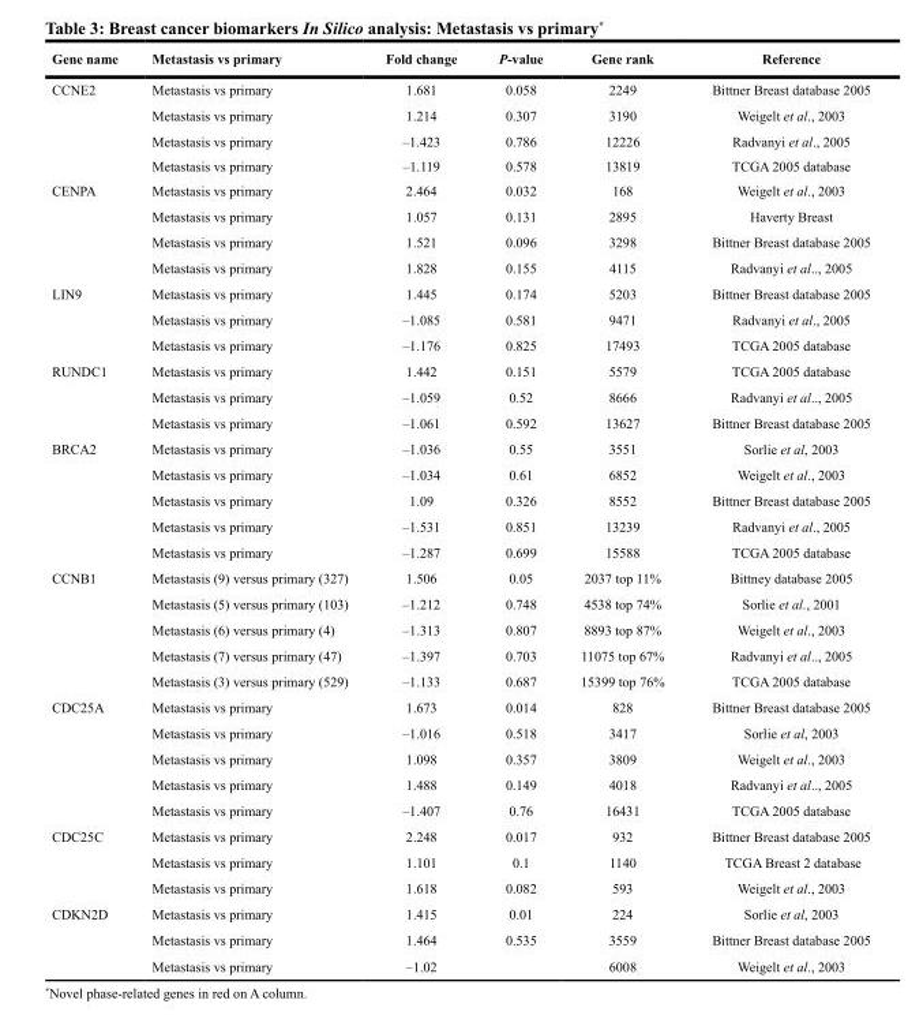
<table><thead><tr><td>Gene name</td><td>Metastasis vs primary</td><td>Fold change</td><td>P-value</td><td>Gene rank</td><td>Reference</td></tr></thead><tbody><tr><td rowspan="4">CCNE2</td><td>Metastasis vs primary</td><td>1.681</td><td>0.058</td><td>2249</td><td>Bittner Breast database 2005</td></tr><tr><td>Metastasis vs primary</td><td>1.214</td><td>0.307</td><td>3190</td><td>Weigelt et al., 2003</td></tr><tr><td>Metastasis vs primary</td><td>–1.423</td><td>0.786</td><td>12226</td><td>Radvanyi et al., 2005</td></tr><tr><td>Metastasis vs primary</td><td>–1.119</td><td>0.578</td><td>13819</td><td>TCGA 2005 database</td></tr><tr><td rowspan="4">CENPA</td><td>Metastasis vs primary</td><td>2.464</td><td>0.032</td><td>168</td><td>Weigelt et al., 2003</td></tr><tr><td>Metastasis vs primary</td><td>1.057</td><td>0.131</td><td>2895</td><td>Haverty Breast</td></tr><tr><td>Metastasis vs primary</td><td>1.521</td><td>0.096</td><td>3298</td><td>Bittner Breast database 2005</td></tr><tr><td>Metastasis vs primary</td><td>1.828</td><td>0.155</td><td>4115</td><td>Radvanyi et al.., 2005</td></tr><tr><td rowspan="3">LIN9</td><td>Metastasis vs primary</td><td>1.445</td><td>0.174</td><td>5203</td><td>Bittner Breast database 2005</td></tr><tr><td>Metastasis vs primary</td><td>–1.085</td><td>0.581</td><td>9471</td><td>Radvanyi et al., 2005</td></tr><tr><td>Metastasis vs primary</td><td>–1.176</td><td>0.825</td><td>17493</td><td>TCGA 2005 database</td></tr><tr><td rowspan="3">RUNDC1</td><td>Metastasis vs primary</td><td>1.442</td><td>0.151</td><td>5579</td><td>TCGA 2005 database</td></tr><tr><td>Metastasis vs primary</td><td>–1.059</td><td>0.52</td><td>8666</td><td>Radvanyi et al.., 2005</td></tr><tr><td>Metastasis vs primary</td><td>–1.061</td><td>0.592</td><td>13627</td><td>Bittner Breast database 2005</td></tr><tr><td rowspan="5">BRCA2</td><td>Metastasis vs primary</td><td>–1.036</td><td>0.55</td><td>3551</td><td>Sorlie et al, 2003</td></tr><tr><td>Metastasis vs primary</td><td>–1.034</td><td>0.61</td><td>6852</td><td>Weigelt et al., 2003</td></tr><tr><td>Metastasis vs primary</td><td>1.09</td><td>0.326</td><td>8552</td><td>Bittner Breast database 2005</td></tr><tr><td>Metastasis vs primary</td><td>–1.531</td><td>0.851</td><td>13239</td><td>Radvanyi et al., 2005</td></tr><tr><td>Metastasis vs primary</td><td>–1.287</td><td>0.699</td><td>15588</td><td>TCGA 2005 database</td></tr><tr><td rowspan="5">CCNB1</td><td>Metastasis (9) versus primary (327)</td><td>1.506</td><td>0.05</td><td>2037 top 11%</td><td>Bittney database 2005</td></tr><tr><td>Metastasis (5) versus primary (103)</td><td>–1.212</td><td>0.748</td><td>4538 top 74%</td><td>Sorlie et al., 2001</td></tr><tr><td>Metastasis (6) versus primary (4)</td><td>–1.313</td><td>0.807</td><td>8893 top 87%</td><td>Weigelt et al., 2003</td></tr><tr><td>Metastasis (7) versus primary (47)</td><td>–1.397</td><td>0.703</td><td>11075 top 67%</td><td>Radvanyi et al.., 2005</td></tr><tr><td>Metastasis (3) versus primary (529)</td><td>–1.133</td><td>0.687</td><td>15399 top 76%</td><td>TCGA 2005 database</td></tr><tr><td rowspan="5">CDC25A</td><td>Metastasis vs primary</td><td>1.673</td><td>0.014</td><td>828</td><td>Bittner Breast database 2005</td></tr><tr><td>Metastasis vs primary</td><td>–1.016</td><td>0.518</td><td>3417</td><td>Sorlie et al, 2003</td></tr><tr><td>Metastasis vs primary</td><td>1.098</td><td>0.357</td><td>3809</td><td>Weigelt et al., 2003</td></tr><tr><td>Metastasis vs primary</td><td>1.488</td><td>0.149</td><td>4018</td><td>Radvanyi et al.., 2005</td></tr><tr><td>Metastasis vs primary</td><td>–1.407</td><td>0.76</td><td>16431</td><td>TCGA 2005 database</td></tr><tr><td rowspan="3">CDC25C</td><td>Metastasis vs primary</td><td>2.248</td><td>0.017</td><td>932</td><td>Bittner Breast database 2005</td></tr><tr><td>Metastasis vs primary</td><td>1.101</td><td>0.1</td><td>1140</td><td>TCGA Breast 2 database</td></tr><tr><td>Metastasis vs primary</td><td>1.618</td><td>0.082</td><td>593</td><td>Weigelt et al., 2003</td></tr><tr><td rowspan="3">CDKN2D</td><td>Metastasis vs primary</td><td>1.415</td><td>0.01</td><td>224</td><td>Sorlie et al, 2003</td></tr><tr><td>Metastasis vs primary</td><td>1.464</td><td>0.535</td><td>3559</td><td>Bittner Breast database 2005</td></tr><tr><td>Metastasis vs primary</td><td>–1.02</td><td></td><td>6008</td><td>Weigelt et al., 2003</td></tr></tbody></table>